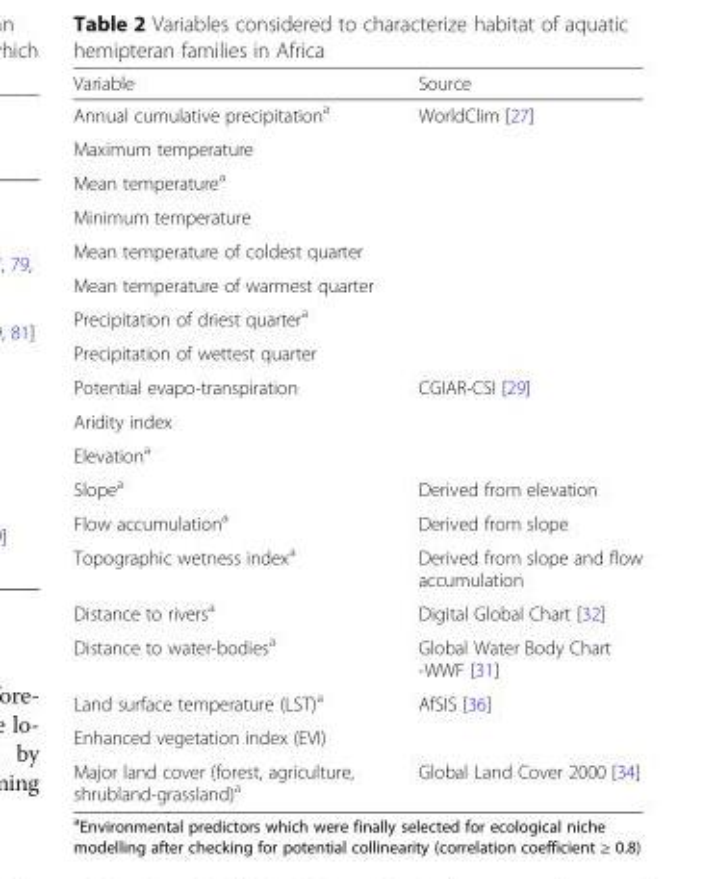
<table><thead><tr><td>Variable</td><td>Source</td></tr></thead><tbody><tr><td>Annual cumulative precipitation<sup>a</sup></td><td rowspan="8">WorldClim [27]</td></tr><tr><td>Maximum temperature</td></tr><tr><td>Mean temperature<sup>a</sup></td></tr><tr><td>Minimum temperature</td></tr><tr><td>Mean temperature of coldest quarter</td></tr><tr><td>Mean temperature of warmest quarter</td></tr><tr><td>Precipitation of driest quarter<sup>a</sup></td></tr><tr><td>Precipitation of wettest quarter</td></tr><tr><td>Potential evapo-transpiration</td><td rowspan="3">CGIAR-CSI [29]</td></tr><tr><td>Aridity index</td></tr><tr><td>Elevation<sup>a</sup></td></tr><tr><td>Slope<sup>a</sup></td><td>Derived from elevation</td></tr><tr><td>Flow accumulation<sup>a</sup></td><td>Derived from slope</td></tr><tr><td>Topographic wetness index<sup>a</sup></td><td>Derived from slope and flow accumulation</td></tr><tr><td>Distance to rivers<sup>a</sup></td><td>Digital Global Chart [32]</td></tr><tr><td>Distance to water-bodies<sup>a</sup></td><td>Global Water Body Chart -WWF [31]</td></tr><tr><td>Land surface temperature (LST)<sup>a</sup></td><td rowspan="2">AfSIS [36]</td></tr><tr><td>Enhanced vegetation index (EVI)</td></tr><tr><td>Major land cover (forest, agriculture, shrubland-grassland)<sup>a</sup></td><td>Global Land Cover 2000 [34]</td></tr></tbody></table>